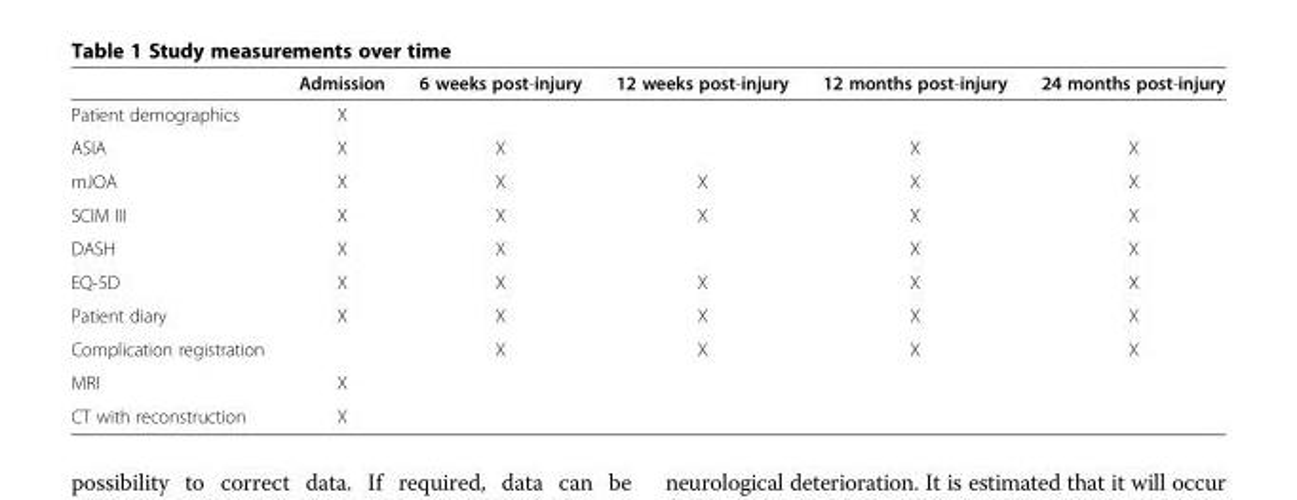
<table><thead><tr><td></td><td>Admission</td><td>6 weeks post-injury</td><td>12 weeks post-injury</td><td>12 months post-injury</td><td>24 months post-injury</td></tr></thead><tbody><tr><td>Patient demographics</td><td>X</td><td></td><td></td><td></td><td></td></tr><tr><td>ASIA</td><td>X</td><td>X</td><td></td><td>X</td><td>X</td></tr><tr><td>mJOA</td><td>X</td><td>X</td><td>X</td><td>X</td><td>X</td></tr><tr><td>SCIM III</td><td>X</td><td>X</td><td>X</td><td>X</td><td>X</td></tr><tr><td>DASH</td><td>X</td><td>X</td><td></td><td>X</td><td>X</td></tr><tr><td>EQ-5D</td><td>X</td><td>X</td><td>X</td><td>X</td><td>X</td></tr><tr><td>Patient diary</td><td>X</td><td>X</td><td>X</td><td>X</td><td>X</td></tr><tr><td>Complication registration</td><td></td><td>X</td><td>X</td><td>X</td><td>X</td></tr><tr><td>MRI</td><td>X</td><td></td><td></td><td></td><td></td></tr><tr><td>CT with reconstruction</td><td>X</td><td></td><td></td><td></td><td></td></tr></tbody></table>